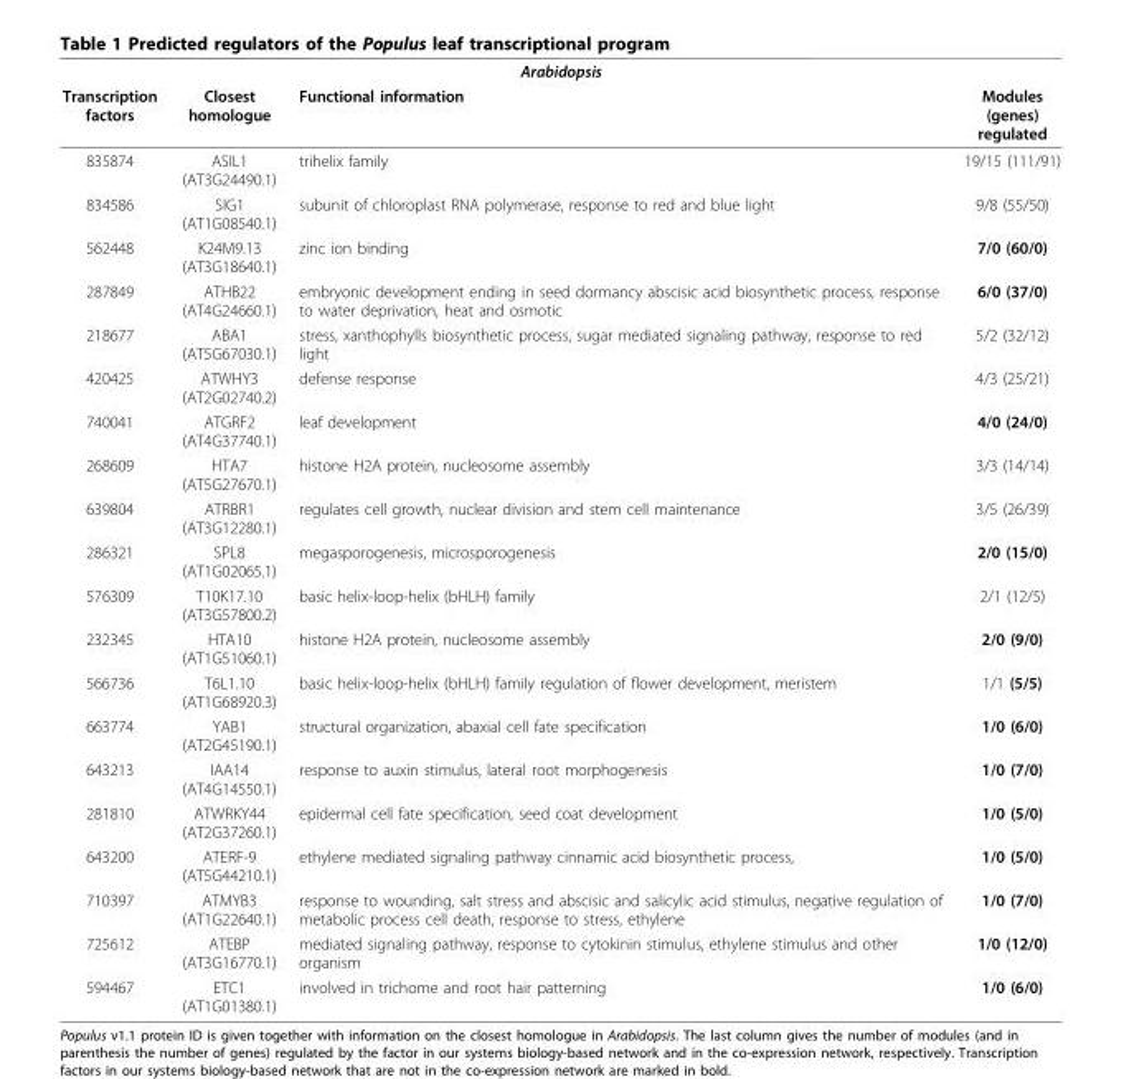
<table><thead><tr><td rowspan="2">Transcription factors</td><td colspan="2">Arabidopsis</td><td rowspan="2">Modules (genes) regulated</td></tr><tr><td>Closest homologue</td><td>Functional information</td></tr></thead><tbody><tr><td>835874</td><td>ASIL1 (AT3G24490.1)</td><td>trihelix family</td><td>19/15 (111/91)</td></tr><tr><td>834586</td><td>SIG1 (AT1G08540.1)</td><td>subunit of chloroplast RNA polymerase, response to red and blue light</td><td>9/8 (55/50)</td></tr><tr><td>562448</td><td>K24M9.13 (AT3G18640.1)</td><td>zinc ion binding</td><td>7/0 (60/0)</td></tr><tr><td>287849</td><td>ATHB22 (AT4G24660.1)</td><td>embryonic development ending in seed dormancy abscisic acid biosynthetic process, response to water deprivation, heat and osmotic</td><td>6/0 (37/0)</td></tr><tr><td>218677</td><td>ABA1 (AT5G67030.1)</td><td>stress, xanthophylls biosynthetic process, sugar mediated signaling pathway, response to red light</td><td>5/2 (32/12)</td></tr><tr><td>420425</td><td>ATWHY3 (AT2G02740.2)</td><td>defense response</td><td>4/3 (25/21)</td></tr><tr><td>740041</td><td>ATGRF2 (AT4G37740.1)</td><td>leaf development</td><td>4/0 (24/0)</td></tr><tr><td>268609</td><td>HTA7 (AT5G27670.1)</td><td>histone H2A protein, nucleosome assembly</td><td>3/3 (14/14)</td></tr><tr><td>639804</td><td>ATRBR1 (AT3G12280.1)</td><td>regulates cell growth, nuclear division and stem cell maintenance</td><td>3/5 (26/39)</td></tr><tr><td>286321</td><td>SPL8 (AT1G02065.1)</td><td>megasporogenesis, microsporogenesis</td><td>2/0 (15/0)</td></tr><tr><td>576309</td><td>T10K17.10 (AT3G57800.2)</td><td>basic helix-loop-helix (bHLH) family</td><td>2/1 (12/5)</td></tr><tr><td>232345</td><td>HTA10 (AT1G51060.1)</td><td>histone H2A protein, nucleosome assembly</td><td>2/0 (9/0)</td></tr><tr><td>566736</td><td>T6L1.10 (AT1G68920.3)</td><td>basic helix-loop-helix (bHLH) family regulation of flower development, meristem</td><td>1/1 (5/5)</td></tr><tr><td>663774</td><td>YAB1 (AT2G45190.1)</td><td>structural organization, abaxial cell fate specification</td><td>1/0 (6/0)</td></tr><tr><td>643213</td><td>IAA14 (AT4G14550.1)</td><td>response to auxin stimulus, lateral root morphogenesis</td><td>1/0 (7/0)</td></tr><tr><td>281810</td><td>ATWRKY44 (AT2G37260.1)</td><td>epidermal cell fate specification, seed coat development</td><td>1/0 (5/0)</td></tr><tr><td>643200</td><td>ATERF-9 (AT5G44210.1)</td><td>ethylene mediated signaling pathway cinnamic acid biosynthetic process,</td><td>1/0 (5/0)</td></tr><tr><td>710397</td><td>ATMYB3 (AT1G22640.1)</td><td>response to wounding, salt stress and abscisic and salicylic acid stimulus, negative regulation of metabolic process cell death, response to stress, ethylene</td><td>1/0 (7/0)</td></tr><tr><td>725612</td><td>ATEBP (AT3G16770.1)</td><td>mediated signaling pathway, response to cytokinin stimulus, ethylene stimulus and other organism</td><td>1/0 (12/0)</td></tr><tr><td>594467</td><td>ETC1 (AT1G01380.1)</td><td>involved in trichome and root hair patterning</td><td>1/0 (6/0)</td></tr></tbody></table>